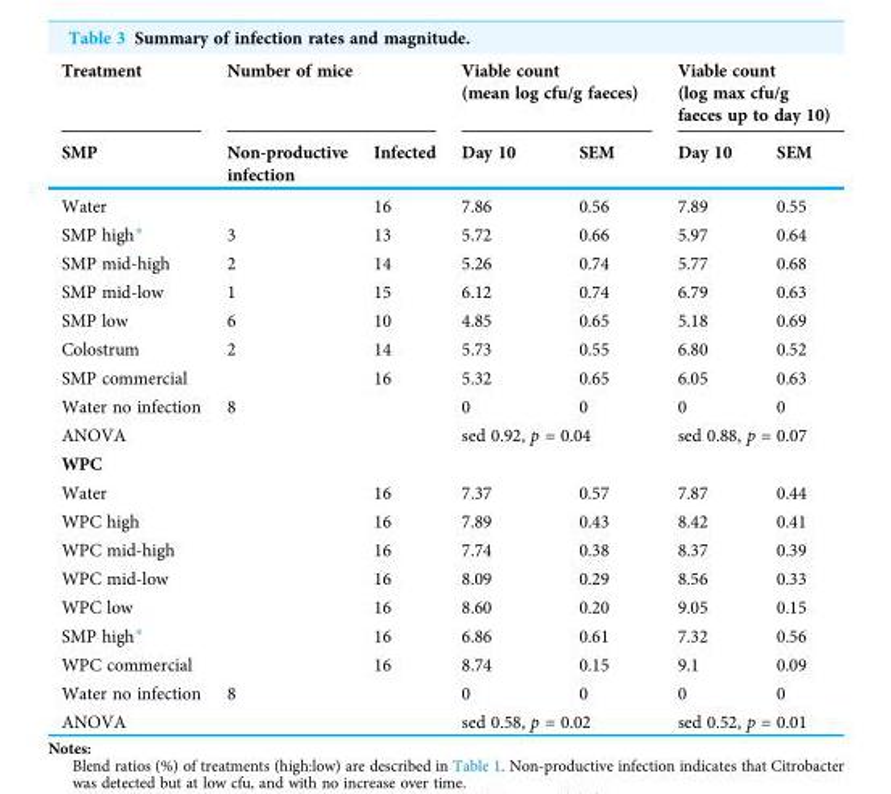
<table><thead><tr><td rowspan="2">Treatment SMP</td><td colspan="2">Number of mice</td><td colspan="2">Viable count (mean log cfu/g faeces)</td><td colspan="2">Viable count (log max cfu/g faeces up to day 10)</td></tr><tr><td>Non-productive infection</td><td>Infected</td><td>Day 10</td><td>SEM</td><td>Day 10</td><td>SEM</td></tr></thead><tbody><tr><td>Water</td><td></td><td>16</td><td>7.86</td><td>0.56</td><td>7.89</td><td>0.55</td></tr><tr><td>SMP high*</td><td>3</td><td>13</td><td>5.72</td><td>0.66</td><td>5.97</td><td>0.64</td></tr><tr><td>SMP mid-high</td><td>2</td><td>14</td><td>5.26</td><td>0.74</td><td>5.77</td><td>0.68</td></tr><tr><td>SMP mid-low</td><td>1</td><td>15</td><td>6.12</td><td>0.74</td><td>6.79</td><td>0.63</td></tr><tr><td>SMP low</td><td>6</td><td>10</td><td>4.85</td><td>0.65</td><td>5.18</td><td>0.69</td></tr><tr><td>Colostrum</td><td>2</td><td>14</td><td>5.73</td><td>0.55</td><td>6.80</td><td>0.52</td></tr><tr><td>SMP commercial</td><td></td><td>16</td><td>5.32</td><td>0.65</td><td>6.05</td><td>0.63</td></tr><tr><td>Water no infection</td><td>8</td><td></td><td>0</td><td>0</td><td>0</td><td>0</td></tr><tr><td colspan="3">ANOVA</td><td colspan="2">sed 0.92, p = 0.04</td><td colspan="2">sed 0.88, p = 0.07</td></tr><tr><td colspan="7">WPC</td></tr><tr><td>Water</td><td></td><td>16</td><td>7.37</td><td>0.57</td><td>7.87</td><td>0.44</td></tr><tr><td>WPC high</td><td></td><td>16</td><td>7.89</td><td>0.43</td><td>8.42</td><td>0.41</td></tr><tr><td>WPC mid-high</td><td></td><td>16</td><td>7.74</td><td>0.38</td><td>8.37</td><td>0.39</td></tr><tr><td>WPC mid-low</td><td></td><td>16</td><td>8.09</td><td>0.29</td><td>8.56</td><td>0.33</td></tr><tr><td>WPC low</td><td></td><td>16</td><td>8.60</td><td>0.20</td><td>9.05</td><td>0.15</td></tr><tr><td>SMP high*</td><td></td><td>16</td><td>6.86</td><td>0.61</td><td>7.32</td><td>0.56</td></tr><tr><td>WPC commercial</td><td></td><td>16</td><td>8.74</td><td>0.15</td><td>9.1</td><td>0.09</td></tr><tr><td>Water no infection</td><td>8</td><td></td><td>0</td><td>0</td><td>0</td><td>0</td></tr><tr><td colspan="3">ANOVA</td><td colspan="2">sed 0.58, p = 0.02</td><td colspan="2">sed 0.52, p = 0.01</td></tr></tbody></table>